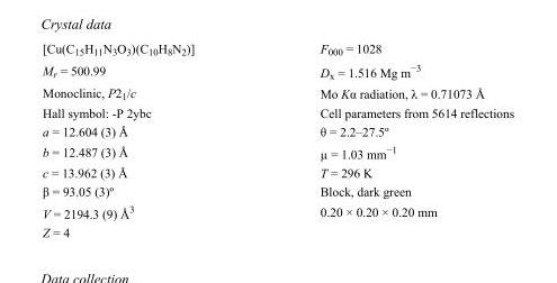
<table><tbody><tr><td>[Cu(C<sub>15</sub>H<sub>11</sub>N<sub>3</sub>O<sub>3</sub>)(C<sub>10</sub>H<sub>8</sub>N<sub>2</sub>)]</td><td>F000 = 1028</td></tr><tr><td>M<sub>r</sub> = 500.99</td><td>D<sub>x</sub> = 1.516 Mg m<sup>−3</sup></td></tr><tr><td>Monoclinic, P2<sub>1</sub>/c</td><td>Mo Kα radiation, λ = 0.71073 Å</td></tr><tr><td>Hall symbol: -P 2ybc</td><td>Cell parameters from 5614 reflections</td></tr><tr><td>a = 12.604 (3) Å</td><td>θ = 2.2–27.5º</td></tr><tr><td>b = 12.487 (3) Å</td><td>µ = 1.03 mm<sup>−1</sup></td></tr><tr><td>c = 13.962 (3) Å</td><td>T = 296 K</td></tr><tr><td>β = 93.05 (3)º</td><td>Block, dark green</td></tr><tr><td>V = 2194.3 (9) Å<sup>3</sup></td><td>0.20 × 0.20 × 0.20 mm</td></tr><tr><td>Z = 4</td><td></td></tr></tbody></table>